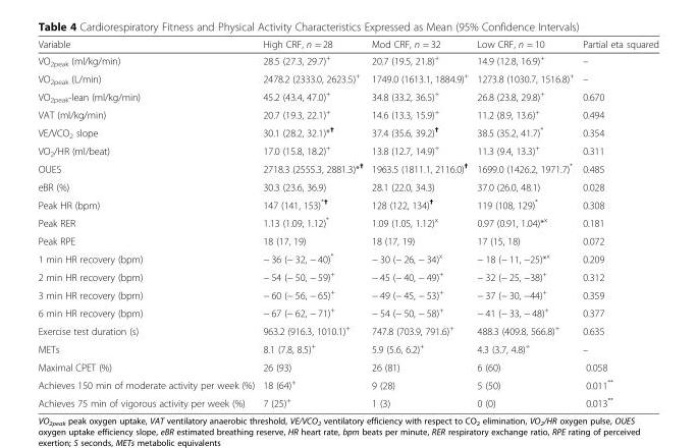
<table><thead><tr><td>Variable</td><td>High CRF, n = 28</td><td>Mod CRF, n = 32</td><td>Low CRF, n = 10</td><td>Partial eta squared</td></tr></thead><tbody><tr><td>VO<sub>2peak</sub> (ml/kg/min)</td><td>28.5 (27.3, 29.7)<sup>+</sup></td><td>20.7 (19.5, 21.8)<sup>+</sup></td><td>14.9 (12.8, 16.9)<sup>+</sup></td><td>–</td></tr><tr><td>VO<sub>2peak</sub> (L/min)</td><td>2478.2 (2333.0, 2623.5)<sup>+</sup></td><td>1749.0 (1613.1, 1884.9)<sup>+</sup></td><td>1273.8 (1030.7, 1516.8)<sup>+</sup></td><td>–</td></tr><tr><td>VO<sub>2peak</sub>-lean (ml/kg/min)</td><td>45.2 (43.4, 47.0)<sup>+</sup></td><td>34.8 (33.2, 36.5)<sup>+</sup></td><td>26.8 (23.8, 29.8)<sup>+</sup></td><td>0.670</td></tr><tr><td>VAT (ml/kg/min)</td><td>20.7 (19.3, 22.1)<sup>+</sup></td><td>14.6 (13.3, 15.9)<sup>+</sup></td><td>11.2 (8.9, 13.6)<sup>+</sup></td><td>0.494</td></tr><tr><td>VE/VCO<sub>2</sub> slope</td><td>30.1 (28.2, 32.1)*<sup>✝</sup></td><td>37.4 (35.6, 39.2)<sup>✝</sup></td><td>38.5 (35.2, 41.7)*</td><td>0.354</td></tr><tr><td>VO<sub>2</sub>/HR (ml/beat)</td><td>17.0 (15.8, 18.2)<sup>+</sup></td><td>13.8 (12.7, 14.9)<sup>+</sup></td><td>11.3 (9.4, 13.3)<sup>+</sup></td><td>0.311</td></tr><tr><td>OUES</td><td>2718.3 (2555.3, 2881.3)*<sup>✝</sup></td><td>1963.5 (1811.1, 2116.0)<sup>✝</sup></td><td>1699.0 (1426.2, 1971.7)*</td><td>0.485</td></tr><tr><td>eBR (%)</td><td>30.3 (23.6, 36.9)</td><td>28.1 (22.0, 34.3)</td><td>37.0 (26.0, 48.1)</td><td>0.028</td></tr><tr><td>Peak HR (bpm)</td><td>147 (141, 153)<sup>*✝</sup></td><td>128 (122, 134)<sup>✝</sup></td><td>119 (108, 129)*</td><td>0.308</td></tr><tr><td>Peak RER</td><td>1.13 (1.09, 1.12)*</td><td>1.09 (1.05, 1.12)<sup>x</sup></td><td>0.97 (0.91, 1.04)*<sup>x</sup></td><td>0.181</td></tr><tr><td>Peak RPE</td><td>18 (17, 19)</td><td>18 (17, 19)</td><td>17 (15, 18)</td><td>0.072</td></tr><tr><td>1 min HR recovery (bpm)</td><td>− 36 (− 32, − 40)*</td><td>− 30 (− 26, − 34)<sup>x</sup></td><td>− 18 (− 11, −25)*<sup>x</sup></td><td>0.209</td></tr><tr><td>2 min HR recovery (bpm)</td><td>− 54 (− 50, − 59)<sup>+</sup></td><td>− 45 (− 40, − 49)<sup>+</sup></td><td>− 32 (− 25, −38)<sup>+</sup></td><td>0.312</td></tr><tr><td>3 min HR recovery (bpm)</td><td>− 60 (− 56, − 65)<sup>+</sup></td><td>− 49 (− 45, − 53)<sup>+</sup></td><td>− 37 (− 30, −44)<sup>+</sup></td><td>0.359</td></tr><tr><td>6 min HR recovery (bpm)</td><td>− 67 (− 62, − 71)<sup>+</sup></td><td>− 54 (− 50, − 58)<sup>+</sup></td><td>− 41 (− 33, − 48)<sup>+</sup></td><td>0.377</td></tr><tr><td>Exercise test duration (s)</td><td>963.2 (916.3, 1010.1)<sup>+</sup></td><td>747.8 (703.9, 791.6)<sup>+</sup></td><td>488.3 (409.8, 566.8)<sup>+</sup></td><td>0.635</td></tr><tr><td>METs</td><td>8.1 (7.8, 8.5)<sup>+</sup></td><td>5.9 (5.6, 6.2)<sup>+</sup></td><td>4.3 (3.7, 4.8)<sup>+</sup></td><td>–</td></tr><tr><td>Maximal CPET (%)</td><td>26 (93)</td><td>26 (81)</td><td>6 (60)</td><td>0.058</td></tr><tr><td>Achieves 150 min of moderate activity per week (%)</td><td>18 (64)<sup>+</sup></td><td>9 (28)</td><td>5 (50)</td><td>0.011**</td></tr><tr><td>Achieves 75 min of vigorous activity per week (%)</td><td>7 (25)<sup>+</sup></td><td>1 (3)</td><td>0 (0)</td><td>0.013**</td></tr></tbody></table>